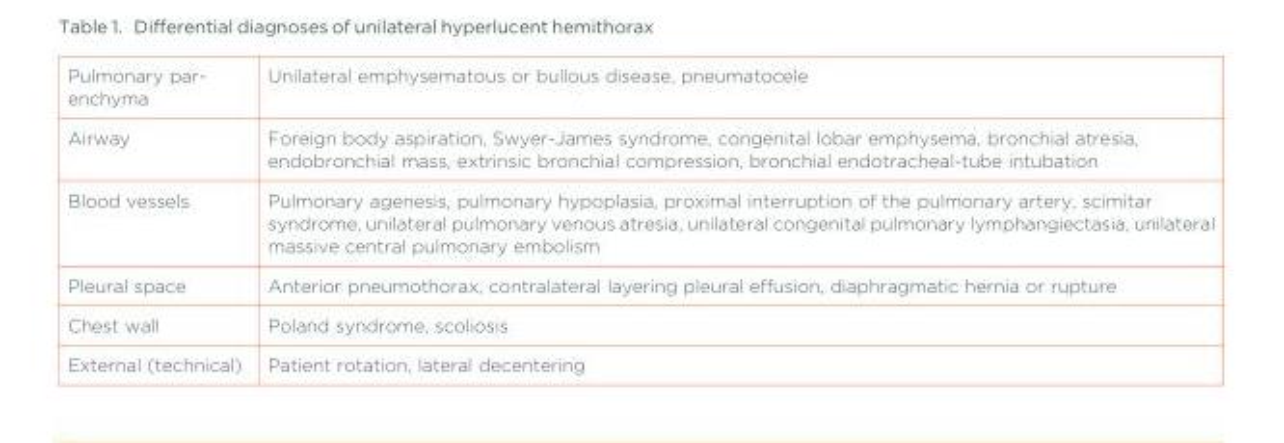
<table><tbody><tr><td>Pulmonary par- enchyma</td><td>Unilateral emphysematous or bullous disease, pneumatocele</td></tr><tr><td>Airway</td><td>Foreign body aspiration, Swyer-James syndrome, congenital lobar emphysema, bronchial atresia, endobronchial mass, extrinsic bronchial compression, bronchial endotracheal-tube intubation</td></tr><tr><td>Blood vessels</td><td>Pulmonary agenesis, pulmonary hypoplasia, proximal interruption of the pulmonary artery, scimitar syndrome, unilateral pulmonary venous atresia, unilateral congenital pulmonary lymphangiectasia, unilateral massive central pulmonary embolism</td></tr><tr><td>Pleural space</td><td>Anterior pneumothorax, contralateral layering pleural effusion, diaphragmatic hernia or rupture</td></tr><tr><td>Chest wall</td><td>Poland syndrome, scoliosis</td></tr><tr><td>External (technical)</td><td>Patient rotation, lateral decentering</td></tr></tbody></table>